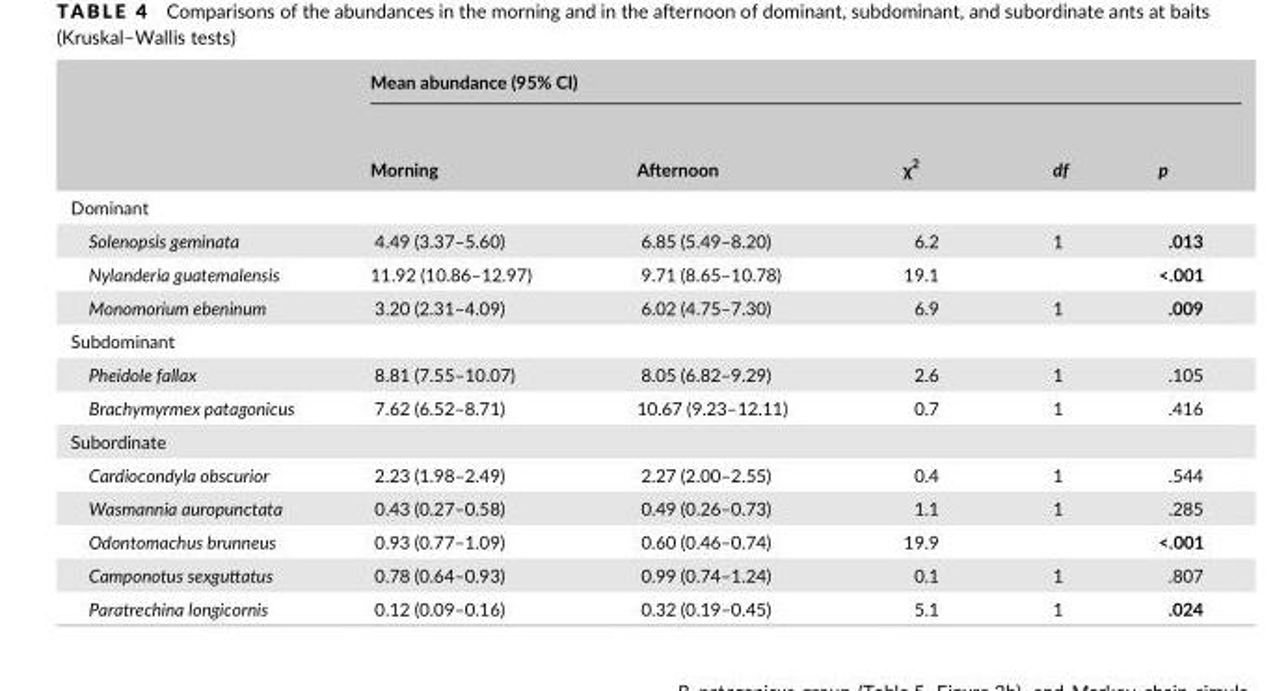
<table><thead><tr><td rowspan="2"></td><td colspan="5">Mean abundance (95% CI)</td></tr><tr><td>Morning</td><td>Afternoon</td><td>χ<sup>2</sup></td><td>df</td><td>p</td></tr></thead><tbody><tr><td colspan="6">Dominant</td></tr><tr><td>Solenopsis geminata</td><td>4.49 (3.37–5.60)</td><td>6.85 (5.49–8.20)</td><td>6.2</td><td>1</td><td>.013</td></tr><tr><td>Nylanderia guatemalensis</td><td>11.92 (10.86–12.97)</td><td>9.71 (8.65–10.78)</td><td>19.1</td><td></td><td>&lt;.001</td></tr><tr><td>Monomorium ebeninum</td><td>3.20 (2.31–4.09)</td><td>6.02 (4.75–7.30)</td><td>6.9</td><td>1</td><td>.009</td></tr><tr><td colspan="6">Subdominant</td></tr><tr><td>Pheidole fallax</td><td>8.81 (7.55–10.07)</td><td>8.05 (6.82–9.29)</td><td>2.6</td><td>1</td><td>.105</td></tr><tr><td>Brachymyrmex patagonicus</td><td>7.62 (6.52–8.71)</td><td>10.67 (9.23–12.11)</td><td>0.7</td><td>1</td><td>.416</td></tr><tr><td colspan="6">Subordinate</td></tr><tr><td>Cardiocondyla obscurior</td><td>2.23 (1.98–2.49)</td><td>2.27 (2.00–2.55)</td><td>0.4</td><td>1</td><td>.544</td></tr><tr><td>Wasmannia auropunctata</td><td>0.43 (0.27–0.58)</td><td>0.49 (0.26–0.73)</td><td>1.1</td><td>1</td><td>.285</td></tr><tr><td>Odontomachus brunneus</td><td>0.93 (0.77–1.09)</td><td>0.60 (0.46–0.74)</td><td>19.9</td><td></td><td>&lt;.001</td></tr><tr><td>Camponotus sexguttatus</td><td>0.78 (0.64–0.93)</td><td>0.99 (0.74–1.24)</td><td>0.1</td><td>1</td><td>.807</td></tr><tr><td>Paratrechina longicornis</td><td>0.12 (0.09–0.16)</td><td>0.32 (0.19–0.45)</td><td>5.1</td><td>1</td><td>.024</td></tr></tbody></table>